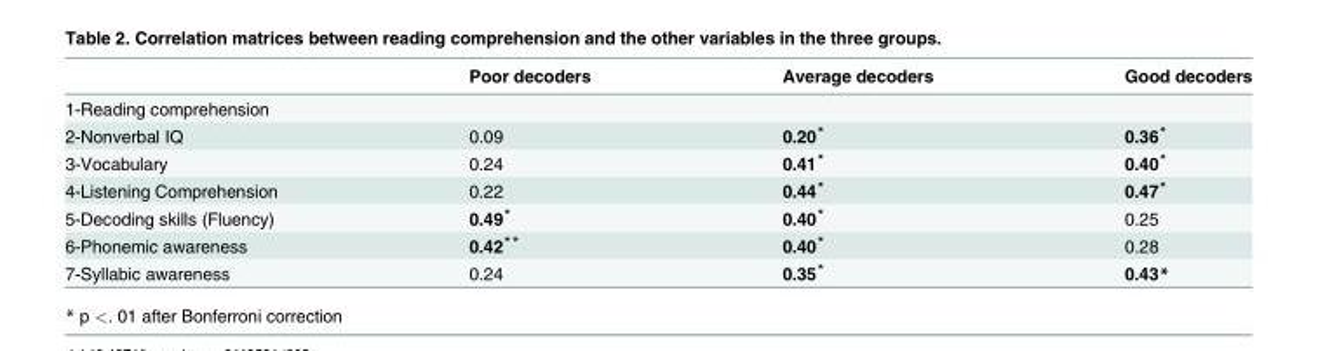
<table><thead><tr><td></td><td>Poor decoders</td><td>Average decoders</td><td>Good decoders</td></tr></thead><tbody><tr><td colspan="4">1-Reading comprehension</td></tr><tr><td>2-Nonverbal IQ</td><td>0.09</td><td>0.20*</td><td>0.36*</td></tr><tr><td>3-Vocabulary</td><td>0.24</td><td>0.41*</td><td>0.40*</td></tr><tr><td>4-Listening Comprehension</td><td>0.22</td><td>0.44*</td><td>0.47*</td></tr><tr><td>5-Decoding skills (Fluency)</td><td>0.49*</td><td>0.40*</td><td>0.25</td></tr><tr><td>6-Phonemic awareness</td><td>0.42**</td><td>0.40*</td><td>0.28</td></tr><tr><td>7-Syllabic awareness</td><td>0.24</td><td>0.35*</td><td>0.43*</td></tr></tbody></table>